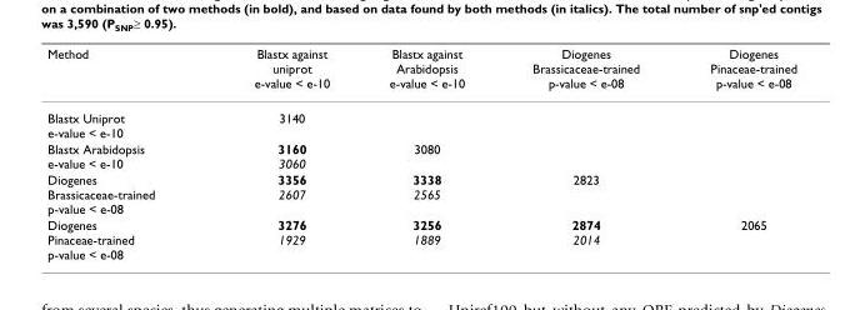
<table><thead><tr><td>Method</td><td>Blastx against uniprot e-value &lt; e-10</td><td>Blastx against Arabidopsis e-value &lt; e-10</td><td>Diogenes Brassicaceae-trained p-value &lt; e-08</td><td>Diogenes Pinaceae-trained p-value &lt; e-08</td></tr></thead><tbody><tr><td>Blastx Uniprot e-value &lt; e-10</td><td>3140</td><td></td><td></td><td></td></tr><tr><td>Blastx Arabidopsis e-value &lt; e-10</td><td>3160 3060</td><td>3080</td><td></td><td></td></tr><tr><td>Diogenes Brassicaceae-trained p-value &lt; e-08</td><td>3356 2607</td><td>3338 2565</td><td>2823</td><td></td></tr><tr><td>Diogenes Pinaceae-trained p-value &lt; e-08</td><td>3276 1929</td><td>3256 1889</td><td>2874 2014</td><td>2065</td></tr></tbody></table>